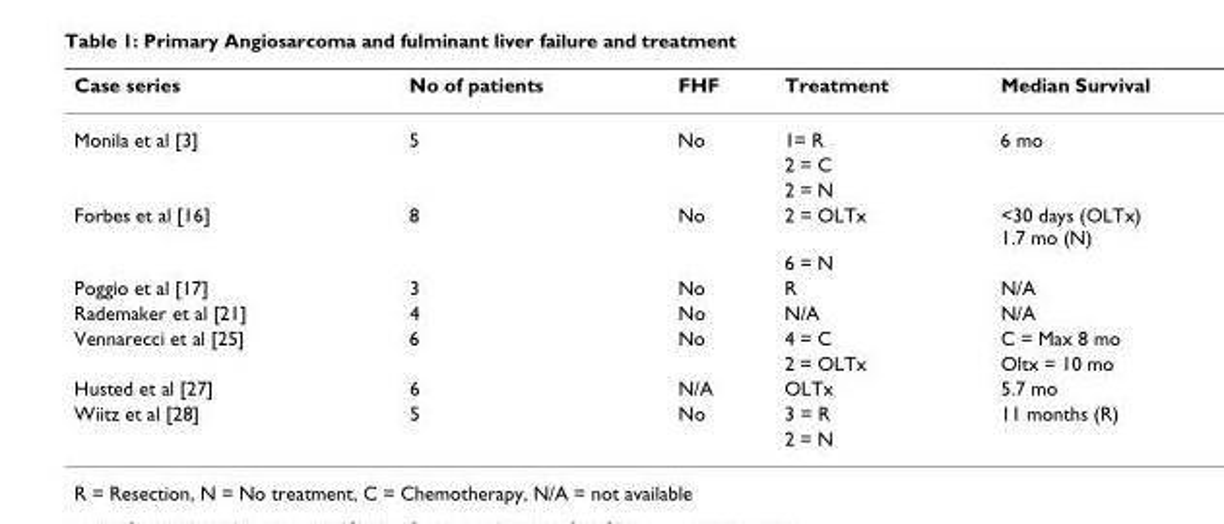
<table><thead><tr><td>Case series</td><td>No of patients</td><td>FHF</td><td>Treatment</td><td>Median Survival</td></tr></thead><tbody><tr><td rowspan="3">Monila et al [3]</td><td>5</td><td>No</td><td>1= R</td><td>6 mo</td></tr><tr><td></td><td></td><td>2 = C</td><td></td></tr><tr><td></td><td></td><td>2 = N</td><td></td></tr><tr><td rowspan="2">Forbes et al [16]</td><td>8</td><td>No</td><td>2 = OLTx</td><td>&lt;30 days (OLTx) 1.7 mo (N)</td></tr><tr><td></td><td></td><td>6 = N</td><td></td></tr><tr><td>Poggio et al [17]</td><td>3</td><td>No</td><td>R</td><td>N/A</td></tr><tr><td>Rademaker et al [21]</td><td>4</td><td>No</td><td>N/A</td><td>N/A</td></tr><tr><td rowspan="2">Vennarecci et al [25]</td><td>6</td><td>No</td><td>4 = C</td><td>C = Max 8 mo</td></tr><tr><td></td><td></td><td>2 = OLTx</td><td>Oltx = 10 mo</td></tr><tr><td>Husted et al [27]</td><td>6</td><td>N/A</td><td>OLTx</td><td>5.7 mo</td></tr><tr><td rowspan="2">Wiitz et al [28]</td><td>5</td><td>No</td><td>3 = R</td><td>11 months (R)</td></tr><tr><td></td><td></td><td>2 = N</td><td></td></tr></tbody></table>